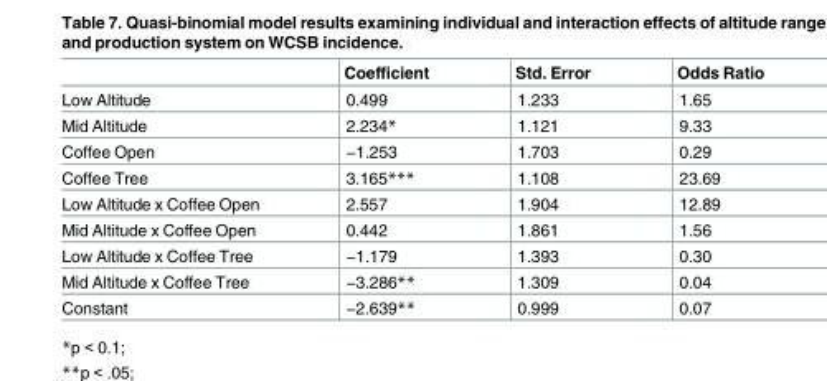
<table><thead><tr><td></td><td>Coefficient</td><td>Std. Error</td><td>Odds Ratio</td></tr></thead><tbody><tr><td>Low Altitude</td><td>0.499</td><td>1.233</td><td>1.65</td></tr><tr><td>Mid Altitude</td><td>2.234*</td><td>1.121</td><td>9.33</td></tr><tr><td>Coffee Open</td><td>−1.253</td><td>1.703</td><td>0.29</td></tr><tr><td>Coffee Tree</td><td>3.165***</td><td>1.108</td><td>23.69</td></tr><tr><td>Low Altitude x Coffee Open</td><td>2.557</td><td>1.904</td><td>12.89</td></tr><tr><td>Mid Altitude x Coffee Open</td><td>0.442</td><td>1.861</td><td>1.56</td></tr><tr><td>Low Altitude x Coffee Tree</td><td>−1.179</td><td>1.393</td><td>0.30</td></tr><tr><td>Mid Altitude x Coffee Tree</td><td>−3.286**</td><td>1.309</td><td>0.04</td></tr><tr><td>Constant</td><td>−2.639**</td><td>0.999</td><td>0.07</td></tr></tbody></table>